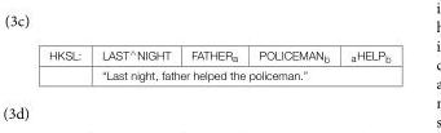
<table><tbody><tr><td rowspan="2">HKSL:</td><td>LAST<sup>∧</sup>NIGHT</td><td>FATHER<sub>a</sub></td><td>POLICEMAN<sub>b</sub></td><td><sub>a</sub>HELP<sub>b</sub></td></tr><tr><td colspan="4">“Last night, father helped the policeman.”</td></tr></tbody></table>